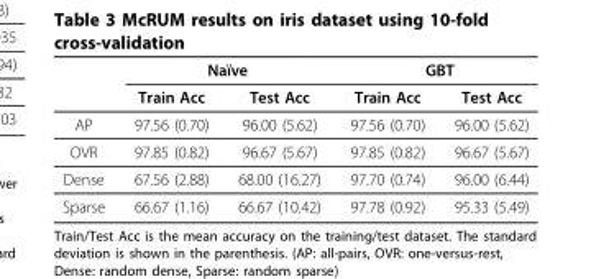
<table><thead><tr><td rowspan="2"></td><td colspan="2">Naïve</td><td colspan="2">GBT</td></tr><tr><td>Train Acc</td><td>Test Acc</td><td>Train Acc</td><td>Test Acc</td></tr></thead><tbody><tr><td>AP</td><td>97.56 (0.70)</td><td>96.00 (5.62)</td><td>97.56 (0.70)</td><td>96.00 (5.62)</td></tr><tr><td>OVR</td><td>97.85 (0.82)</td><td>96.67 (5.67)</td><td>97.85 (0.82)</td><td>96.67 (5.67)</td></tr><tr><td>Dense</td><td>67.56 (2.88)</td><td>68.00 (16.27)</td><td>97.70 (0.74)</td><td>96.00 (6.44)</td></tr><tr><td>Sparse</td><td>66.67 (1.16)</td><td>66.67 (10.42)</td><td>97.78 (0.92)</td><td>95.33 (5.49)</td></tr></tbody></table>